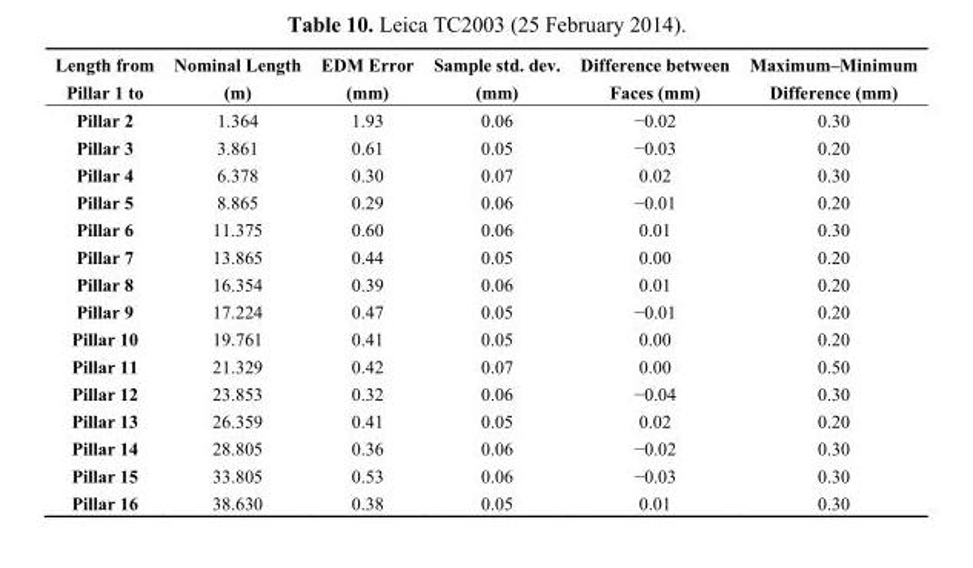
<table><thead><tr><td>Length from Pillar 1 to</td><td>Nominal Length (m)</td><td>EDM Error (mm)</td><td>Sample std. dev. (mm)</td><td>Difference between Faces (mm)</td><td>Maximum–Minimum Difference (mm)</td></tr></thead><tbody><tr><td>Pillar 2</td><td>1.364</td><td>1.93</td><td>0.06</td><td>−0.02</td><td>0.30</td></tr><tr><td>Pillar 3</td><td>3.861</td><td>0.61</td><td>0.05</td><td>−0.03</td><td>0.20</td></tr><tr><td>Pillar 4</td><td>6.378</td><td>0.30</td><td>0.07</td><td>0.02</td><td>0.30</td></tr><tr><td>Pillar 5</td><td>8.865</td><td>0.29</td><td>0.06</td><td>−0.01</td><td>0.20</td></tr><tr><td>Pillar 6</td><td>11.375</td><td>0.60</td><td>0.06</td><td>0.01</td><td>0.30</td></tr><tr><td>Pillar 7</td><td>13.865</td><td>0.44</td><td>0.05</td><td>0.00</td><td>0.20</td></tr><tr><td>Pillar 8</td><td>16.354</td><td>0.39</td><td>0.06</td><td>0.01</td><td>0.20</td></tr><tr><td>Pillar 9</td><td>17.224</td><td>0.47</td><td>0.05</td><td>−0.01</td><td>0.20</td></tr><tr><td>Pillar 10</td><td>19.761</td><td>0.41</td><td>0.05</td><td>0.00</td><td>0.20</td></tr><tr><td>Pillar 11</td><td>21.329</td><td>0.42</td><td>0.07</td><td>0.00</td><td>0.50</td></tr><tr><td>Pillar 12</td><td>23.853</td><td>0.32</td><td>0.06</td><td>−0.04</td><td>0.30</td></tr><tr><td>Pillar 13</td><td>26.359</td><td>0.41</td><td>0.05</td><td>0.02</td><td>0.20</td></tr><tr><td>Pillar 14</td><td>28.805</td><td>0.36</td><td>0.06</td><td>−0.02</td><td>0.30</td></tr><tr><td>Pillar 15</td><td>33.805</td><td>0.53</td><td>0.06</td><td>−0.03</td><td>0.30</td></tr><tr><td>Pillar 16</td><td>38.630</td><td>0.38</td><td>0.05</td><td>0.01</td><td>0.30</td></tr></tbody></table>